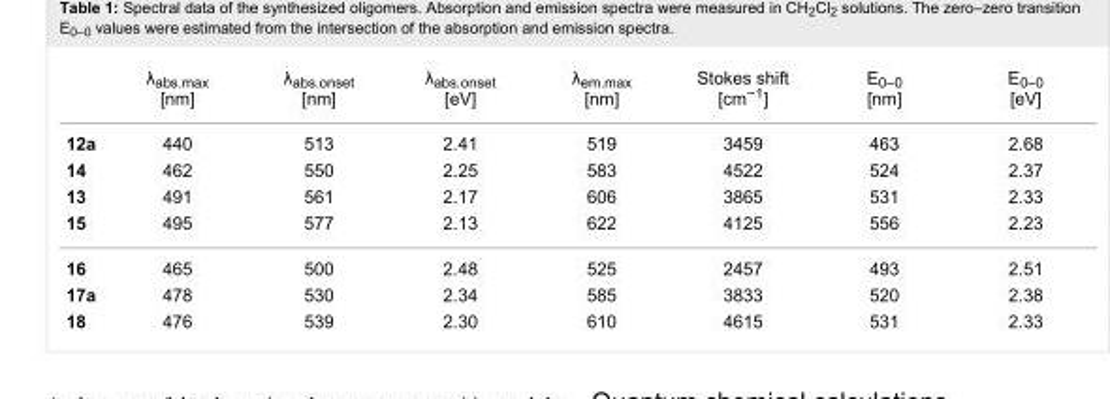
<table><thead><tr><td></td><td>λ<sub>abs.max</sub> [nm]</td><td>λ<sub>abs.onset</sub> [nm]</td><td>λ<sub>abs.onset</sub> [eV]</td><td>λ<sub>em.max</sub> [nm]</td><td>Stokes shift [cm<sup>−1</sup>]</td><td>E<sub>0–0</sub> [nm]</td><td>E<sub>0–0</sub> [eV]</td></tr></thead><tbody><tr><td>12a</td><td>440</td><td>513</td><td>2.41</td><td>519</td><td>3459</td><td>463</td><td>2.68</td></tr><tr><td>14</td><td>462</td><td>550</td><td>2.25</td><td>583</td><td>4522</td><td>524</td><td>2.37</td></tr><tr><td>13</td><td>491</td><td>561</td><td>2.17</td><td>606</td><td>3865</td><td>531</td><td>2.33</td></tr><tr><td>15</td><td>495</td><td>577</td><td>2.13</td><td>622</td><td>4125</td><td>556</td><td>2.23</td></tr><tr><td>16</td><td>465</td><td>500</td><td>2.48</td><td>525</td><td>2457</td><td>493</td><td>2.51</td></tr><tr><td>17a</td><td>478</td><td>530</td><td>2.34</td><td>585</td><td>3833</td><td>520</td><td>2.38</td></tr><tr><td>18</td><td>476</td><td>539</td><td>2.30</td><td>610</td><td>4615</td><td>531</td><td>2.33</td></tr></tbody></table>